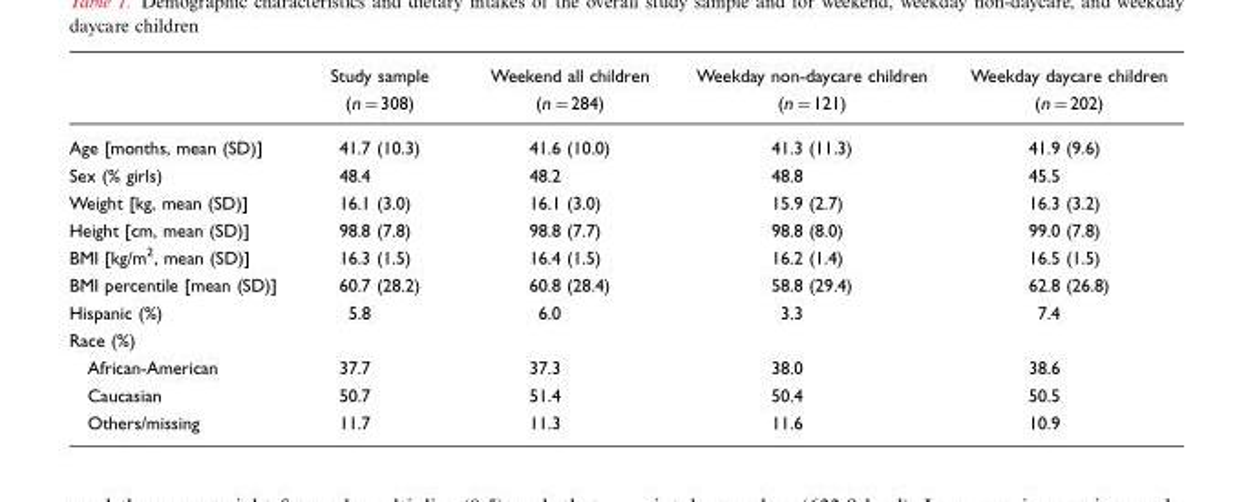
<table><thead><tr><td></td><td>Study sample (n=308)</td><td>Weekend all children (n=284)</td><td>Weekday non-daycare children (n=121)</td><td>Weekday daycare children (n=202)</td></tr></thead><tbody><tr><td>Age [months, mean (SD)]</td><td>41.7 (10.3)</td><td>41.6 (10.0)</td><td>41.3 (11.3)</td><td>41.9 (9.6)</td></tr><tr><td>Sex (% girls)</td><td>48.4</td><td>48.2</td><td>48.8</td><td>45.5</td></tr><tr><td>Weight [kg, mean (SD)]</td><td>16.1 (3.0)</td><td>16.1 (3.0)</td><td>15.9 (2.7)</td><td>16.3 (3.2)</td></tr><tr><td>Height [cm, mean (SD)]</td><td>98.8 (7.8)</td><td>98.8 (7.7)</td><td>98.8 (8.0)</td><td>99.0 (7.8)</td></tr><tr><td>BMI [kg/m<sup>2</sup>, mean (SD)]</td><td>16.3 (1.5)</td><td>16.4 (1.5)</td><td>16.2 (1.4)</td><td>16.5 (1.5)</td></tr><tr><td>BMI percentile [mean (SD)]</td><td>60.7 (28.2)</td><td>60.8 (28.4)</td><td>58.8 (29.4)</td><td>62.8 (26.8)</td></tr><tr><td>Hispanic (%)</td><td>5.8</td><td>6.0</td><td>3.3</td><td>7.4</td></tr><tr><td colspan="5">Race (%)</td></tr><tr><td>African-American</td><td>37.7</td><td>37.3</td><td>38.0</td><td>38.6</td></tr><tr><td>Caucasian</td><td>50.7</td><td>51.4</td><td>50.4</td><td>50.5</td></tr><tr><td>Others/missing</td><td>11.7</td><td>11.3</td><td>11.6</td><td>10.9</td></tr></tbody></table>